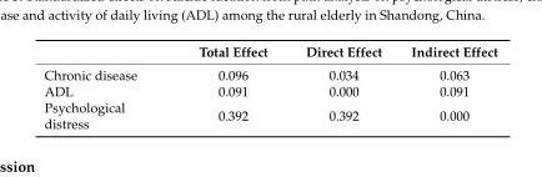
<table><thead><tr><td></td><td>Total Effect</td><td>Direct Effect</td><td>Indirect Effect</td></tr></thead><tbody><tr><td>Chronic disease</td><td>0.096</td><td>0.034</td><td>0.063</td></tr><tr><td>ADL</td><td>0.091</td><td>0.000</td><td>0.091</td></tr><tr><td>Psychological distress</td><td>0.392</td><td>0.392</td><td>0.000</td></tr></tbody></table>